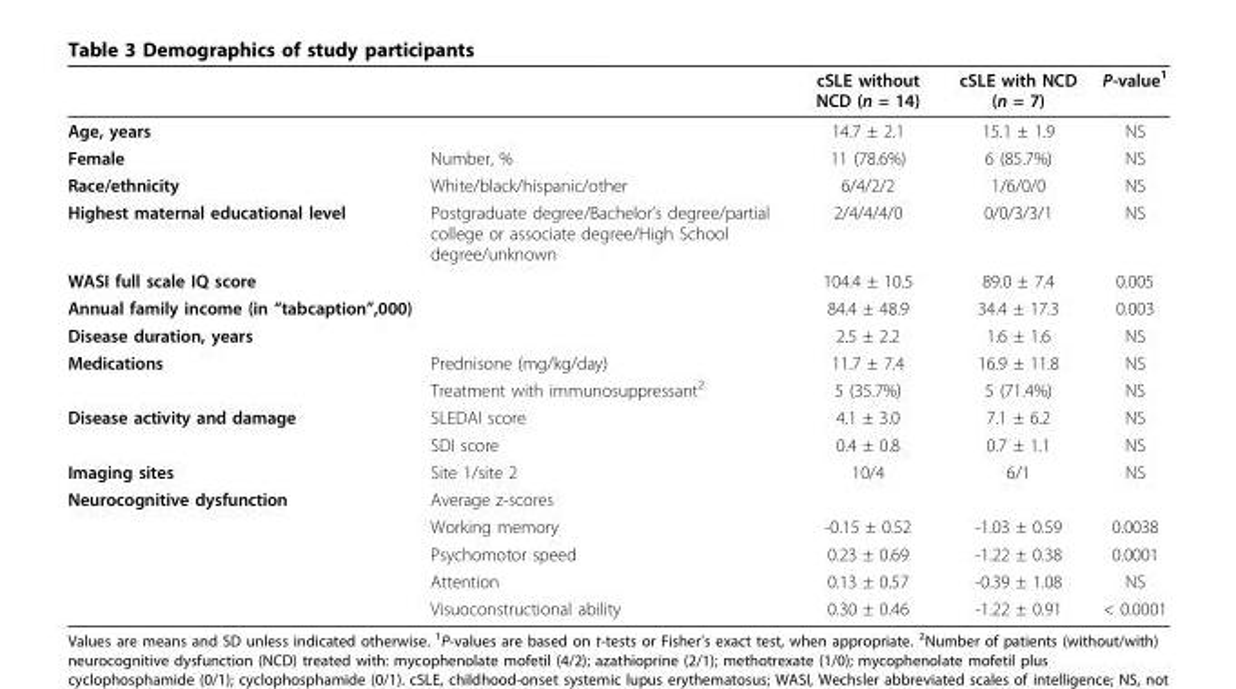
<table><thead><tr><td></td><td></td><td>cSLE without NCD (n = 14)</td><td>cSLE with NCD (n = 7)</td><td>P-value<sup>1</sup></td></tr></thead><tbody><tr><td>Age, years</td><td></td><td>14.7 ± 2.1</td><td>15.1 ± 1.9</td><td>NS</td></tr><tr><td>Female</td><td>Number, %</td><td>11 (78.6%)</td><td>6 (85.7%)</td><td>NS</td></tr><tr><td>Race/ethnicity</td><td>White/black/hispanic/other</td><td>6/4/2/2</td><td>1/6/0/0</td><td>NS</td></tr><tr><td>Highest maternal educational level</td><td>Postgraduate degree/Bachelor’s degree/partial college or associate degree/High School degree/unknown</td><td>2/4/4/4/0</td><td>0/0/3/3/1</td><td>NS</td></tr><tr><td>WASI full scale IQ score</td><td></td><td>104.4 ± 10.5</td><td>89.0 ± 7.4</td><td>0.005</td></tr><tr><td>Annual family income (in “tabcaption”,000)</td><td></td><td>84.4 ± 48.9</td><td>34.4 ± 17.3</td><td>0.003</td></tr><tr><td colspan="2">Disease duration, years</td><td>2.5 ± 2.2</td><td>1.6 ± 1.6</td><td>NS</td></tr><tr><td rowspan="2">Medications</td><td>Prednisone (mg/kg/day)</td><td>11.7 ± 7.4</td><td>16.9 ± 11.8</td><td>NS</td></tr><tr><td>Treatment with immunosuppressant<sup>2</sup></td><td>5 (35.7%)</td><td>5 (71.4%)</td><td>NS</td></tr><tr><td rowspan="2">Disease activity and damage</td><td>SLEDAI score</td><td>4.1 ± 3.0</td><td>7.1 ± 6.2</td><td>NS</td></tr><tr><td>SDI score</td><td>0.4 ± 0.8</td><td>0.7 ± 1.1</td><td>NS</td></tr><tr><td>Imaging sites</td><td>Site 1/site 2</td><td>10/4</td><td>6/1</td><td>NS</td></tr><tr><td rowspan="5">Neurocognitive dysfunction</td><td>Average z-scores</td><td></td><td></td><td></td></tr><tr><td>Working memory</td><td>-0.15 ± 0.52</td><td>-1.03 ± 0.59</td><td>0.0038</td></tr><tr><td>Psychomotor speed</td><td>0.23 ± 0.69</td><td>-1.22 ± 0.38</td><td>0.0001</td></tr><tr><td>Attention</td><td>0.13 ± 0.57</td><td>-0.39 ± 1.08</td><td>NS</td></tr><tr><td>Visuoconstructional ability</td><td>0.30 ± 0.46</td><td>-1.22 ± 0.91</td><td>&lt; 0.0001</td></tr></tbody></table>